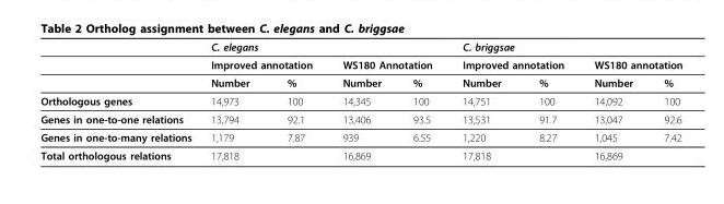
<table><thead><tr><td rowspan="3"></td><td colspan="4">C. elegans</td><td colspan="4">C. briggsae</td></tr><tr><td colspan="2">Improved annotation</td><td colspan="2">WS180 Annotation</td><td colspan="2">Improved annotation</td><td colspan="2">WS180 annotation</td></tr><tr><td>Number</td><td>%</td><td>Number</td><td>%</td><td>Number</td><td>%</td><td>Number</td><td>%</td></tr></thead><tbody><tr><td>Orthologous genes</td><td>14,973</td><td>100</td><td>14,345</td><td>100</td><td>14,751</td><td>100</td><td>14,092</td><td>100</td></tr><tr><td>Genes in one-to-one relations</td><td>13,794</td><td>92.1</td><td>13,406</td><td>93.5</td><td>13,531</td><td>91.7</td><td>13,047</td><td>92.6</td></tr><tr><td>Genes in one-to-many relations</td><td>1,179</td><td>7.87</td><td>939</td><td>6.55</td><td>1,220</td><td>8.27</td><td>1,045</td><td>7.42</td></tr><tr><td>Total orthologous relations</td><td colspan="2">17,818</td><td colspan="2">16,869</td><td colspan="2">17,818</td><td colspan="2">16,869</td></tr></tbody></table>